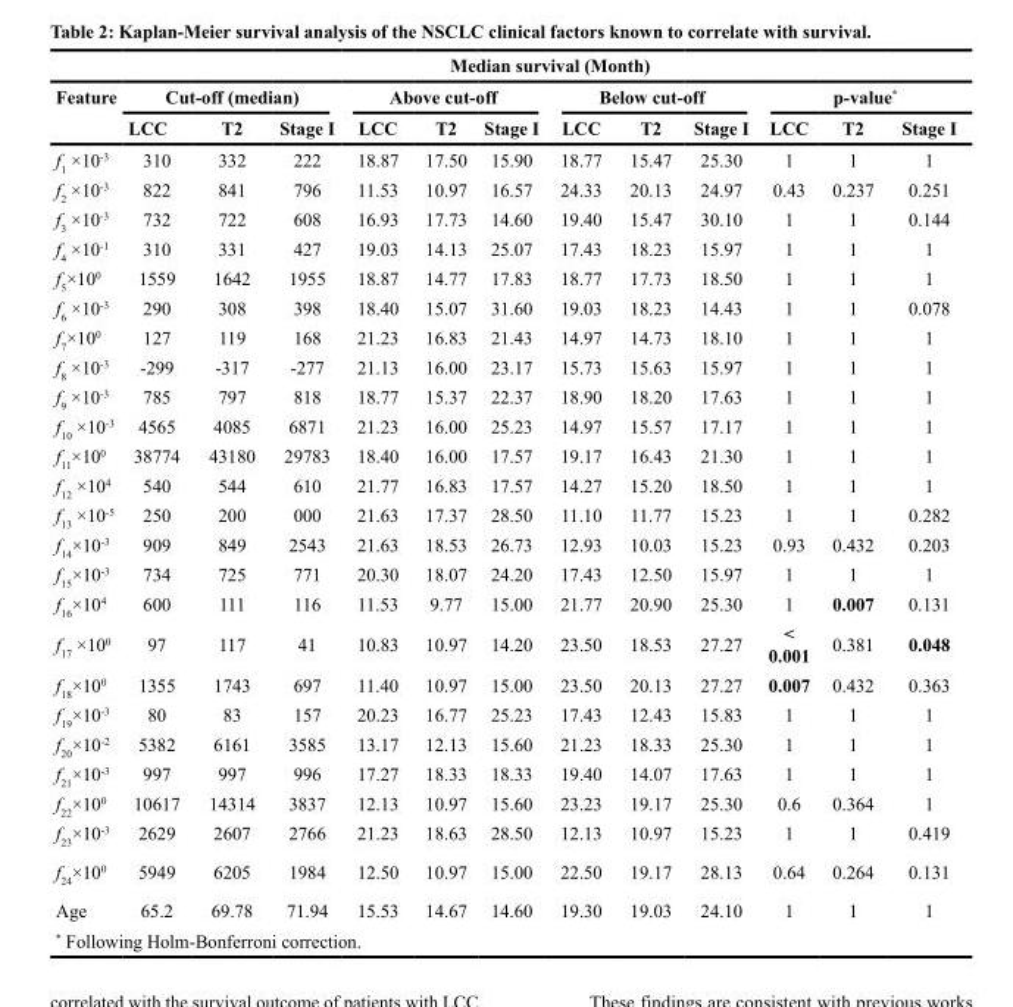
<table><thead><tr><td rowspan="3">Feature</td><td></td><td></td><td></td><td colspan="6">Median survival (Month)</td><td></td><td></td><td></td></tr><tr><td colspan="3">Cut-off (median)</td><td colspan="3">Above cut-off</td><td colspan="3">Below cut-off</td><td colspan="3">p-value*</td></tr><tr><td>LCC</td><td>T2</td><td>Stage I</td><td>LCC</td><td>T2</td><td>Stage I</td><td>LCC</td><td>T2</td><td>Stage I</td><td>LCC</td><td>T2</td><td>Stage I</td></tr></thead><tbody><tr><td>f<sub>1</sub> ×10<sup>-3</sup></td><td>310</td><td>332</td><td>222</td><td>18.87</td><td>17.50</td><td>15.90</td><td>18.77</td><td>15.47</td><td>25.30</td><td>1</td><td>1</td><td>1</td></tr><tr><td>f<sub>2</sub> ×10<sup>-3</sup></td><td>822</td><td>841</td><td>796</td><td>11.53</td><td>10.97</td><td>16.57</td><td>24.33</td><td>20.13</td><td>24.97</td><td>0.43</td><td>0.237</td><td>0.251</td></tr><tr><td>f<sub>3</sub> ×10<sup>-3</sup></td><td>732</td><td>722</td><td>608</td><td>16.93</td><td>17.73</td><td>14.60</td><td>19.40</td><td>15.47</td><td>30.10</td><td>1</td><td>1</td><td>0.144</td></tr><tr><td>f<sub>4</sub> ×10<sup>-1</sup></td><td>310</td><td>331</td><td>427</td><td>19.03</td><td>14.13</td><td>25.07</td><td>17.43</td><td>18.23</td><td>15.97</td><td>1</td><td>1</td><td>1</td></tr><tr><td>f<sub>5</sub>×10<sup>0</sup></td><td>1559</td><td>1642</td><td>1955</td><td>18.87</td><td>14.77</td><td>17.83</td><td>18.77</td><td>17.73</td><td>18.50</td><td>1</td><td>1</td><td>1</td></tr><tr><td>f<sub>6</sub> ×10<sup>-3</sup></td><td>290</td><td>308</td><td>398</td><td>18.40</td><td>15.07</td><td>31.60</td><td>19.03</td><td>18.23</td><td>14.43</td><td>1</td><td>1</td><td>0.078</td></tr><tr><td>f<sub>7</sub>×10<sup>0</sup></td><td>127</td><td>119</td><td>168</td><td>21.23</td><td>16.83</td><td>21.43</td><td>14.97</td><td>14.73</td><td>18.10</td><td>1</td><td>1</td><td>1</td></tr><tr><td>f<sub>8</sub> ×10<sup>-3</sup></td><td>-299</td><td>-317</td><td>-277</td><td>21.13</td><td>16.00</td><td>23.17</td><td>15.73</td><td>15.63</td><td>15.97</td><td>1</td><td>1</td><td>1</td></tr><tr><td>f<sub>9</sub> ×10<sup>-3</sup></td><td>785</td><td>797</td><td>818</td><td>18.77</td><td>15.37</td><td>22.37</td><td>18.90</td><td>18.20</td><td>17.63</td><td>1</td><td>1</td><td>1</td></tr><tr><td>f<sub>10</sub> ×10<sup>-3</sup></td><td>4565</td><td>4085</td><td>6871</td><td>21.23</td><td>16.00</td><td>25.23</td><td>14.97</td><td>15.57</td><td>17.17</td><td>1</td><td>1</td><td>1</td></tr><tr><td>f<sub>11</sub>×10<sup>0</sup></td><td>38774</td><td>43180</td><td>29783</td><td>18.40</td><td>16.00</td><td>17.57</td><td>19.17</td><td>16.43</td><td>21.30</td><td>1</td><td>1</td><td>1</td></tr><tr><td>f<sub>12</sub> ×10<sup>4</sup></td><td>540</td><td>544</td><td>610</td><td>21.77</td><td>16.83</td><td>17.57</td><td>14.27</td><td>15.20</td><td>18.50</td><td>1</td><td>1</td><td>1</td></tr><tr><td>f<sub>13</sub> ×10<sup>-5</sup></td><td>250</td><td>200</td><td>000</td><td>21.63</td><td>17.37</td><td>28.50</td><td>11.10</td><td>11.77</td><td>15.23</td><td>1</td><td>1</td><td>0.282</td></tr><tr><td>f<sub>14</sub>×10<sup>-3</sup></td><td>909</td><td>849</td><td>2543</td><td>21.63</td><td>18.53</td><td>26.73</td><td>12.93</td><td>10.03</td><td>15.23</td><td>0.93</td><td>0.432</td><td>0.203</td></tr><tr><td>f<sub>15</sub>×10<sup>-3</sup></td><td>734</td><td>725</td><td>771</td><td>20.30</td><td>18.07</td><td>24.20</td><td>17.43</td><td>12.50</td><td>15.97</td><td>1</td><td>1</td><td>1</td></tr><tr><td>f<sub>16</sub>×10<sup>4</sup></td><td>600</td><td>111</td><td>116</td><td>11.53</td><td>9.77</td><td>15.00</td><td>21.77</td><td>20.90</td><td>25.30</td><td>1</td><td>0.007</td><td>0.131</td></tr><tr><td>f<sub>17</sub> ×10<sup>0</sup></td><td>97</td><td>117</td><td>41</td><td>10.83</td><td>10.97</td><td>14.20</td><td>23.50</td><td>18.53</td><td>27.27</td><td>&lt; 0.001</td><td>0.381</td><td>0.048</td></tr><tr><td>f<sub>18</sub>×10<sup>0</sup></td><td>1355</td><td>1743</td><td>697</td><td>11.40</td><td>10.97</td><td>15.00</td><td>23.50</td><td>20.13</td><td>27.27</td><td>0.007</td><td>0.432</td><td>0.363</td></tr><tr><td>f<sub>19</sub>×10<sup>-3</sup></td><td>80</td><td>83</td><td>157</td><td>20.23</td><td>16.77</td><td>25.23</td><td>17.43</td><td>12.43</td><td>15.83</td><td>1</td><td>1</td><td>1</td></tr><tr><td>f<sub>20</sub>×10<sup>-2</sup></td><td>5382</td><td>6161</td><td>3585</td><td>13.17</td><td>12.13</td><td>15.60</td><td>21.23</td><td>18.33</td><td>25.30</td><td>1</td><td>1</td><td>1</td></tr><tr><td>f<sub>21</sub>×10<sup>-3</sup></td><td>997</td><td>997</td><td>996</td><td>17.27</td><td>18.33</td><td>18.33</td><td>19.40</td><td>14.07</td><td>17.63</td><td>1</td><td>1</td><td>1</td></tr><tr><td>f<sub>22</sub>×10<sup>0</sup></td><td>10617</td><td>14314</td><td>3837</td><td>12.13</td><td>10.97</td><td>15.60</td><td>23.23</td><td>19.17</td><td>25.30</td><td>0.6</td><td>0.364</td><td>1</td></tr><tr><td>f<sub>23</sub>×10<sup>-3</sup></td><td>2629</td><td>2607</td><td>2766</td><td>21.23</td><td>18.63</td><td>28.50</td><td>12.13</td><td>10.97</td><td>15.23</td><td>1</td><td>1</td><td>0.419</td></tr><tr><td>f<sub>24</sub>×10<sup>0</sup></td><td>5949</td><td>6205</td><td>1984</td><td>12.50</td><td>10.97</td><td>15.00</td><td>22.50</td><td>19.17</td><td>28.13</td><td>0.64</td><td>0.264</td><td>0.131</td></tr><tr><td>Age</td><td>65.2</td><td>69.78</td><td>71.94</td><td>15.53</td><td>14.67</td><td>14.60</td><td>19.30</td><td>19.03</td><td>24.10</td><td>1</td><td>1</td><td>1</td></tr><tr><td colspan="13">* Following Holm-Bonferroni correction.</td></tr></tbody></table>